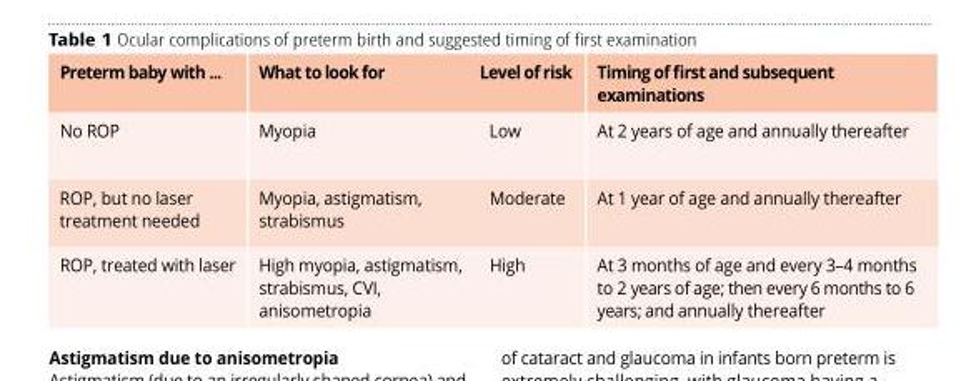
<table><thead><tr><td>Preterm baby with ...</td><td>What to look for</td><td>Level of risk</td><td>Timing of first and subsequent examinations</td></tr></thead><tbody><tr><td>No ROP</td><td>Myopia</td><td>Low</td><td>At 2 years of age and annually thereafter</td></tr><tr><td>ROP, but no laser treatment needed</td><td>Myopia, astigmatism, strabismus</td><td>Moderate</td><td>At 1 year of age and annually thereafter</td></tr><tr><td>ROP, treated with laser</td><td>High myopia, astigmatism, strabismus, CVI, anisometropia</td><td>High</td><td>At 3 months of age and every 3–4 months to 2 years of age; then every 6 months to 6 years; and annually thereafter</td></tr></tbody></table>